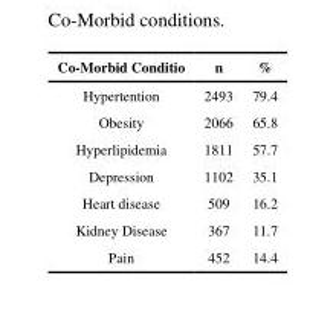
<table><thead><tr><td>Co-Morbid Conditio</td><td>n</td><td>%</td></tr></thead><tbody><tr><td>Hypertention</td><td>2493</td><td>79.4</td></tr><tr><td>Obesity</td><td>2066</td><td>65.8</td></tr><tr><td>Hyperlipidemia</td><td>1811</td><td>57.7</td></tr><tr><td>Depression</td><td>1102</td><td>35.1</td></tr><tr><td>Heart disease</td><td>509</td><td>16.2</td></tr><tr><td>Kidney Disease</td><td>367</td><td>11.7</td></tr><tr><td>Pain</td><td>452</td><td>14.4</td></tr></tbody></table>